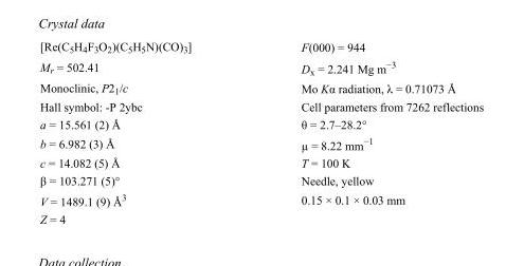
<table><tbody><tr><td>[Re(C<sub>5</sub>H<sub>4</sub>F<sub>3</sub>O<sub>2</sub>)(C<sub>5</sub>H<sub>5</sub>N)(CO)<sub>3</sub>]</td><td>F(000) = 944</td></tr><tr><td>M<sub>r</sub> = 502.41</td><td>D<sub>x</sub> = 2.241 Mg m<sup>−3</sup></td></tr><tr><td>Monoclinic, P2<sub>1</sub>/c</td><td>Mo Kα radiation, λ = 0.71073 Å</td></tr><tr><td>Hall symbol: -P 2ybc</td><td>Cell parameters from 7262 reflections</td></tr><tr><td>a = 15.561 (2) Å</td><td>θ = 2.7–28.2°</td></tr><tr><td>b = 6.982 (3) Å</td><td>µ = 8.22 mm<sup>−1</sup></td></tr><tr><td>c = 14.082 (5) Å</td><td>T = 100 K</td></tr><tr><td>β = 103.271 (5)°</td><td>Needle, yellow</td></tr><tr><td>V = 1489.1 (9) Å<sup>3</sup></td><td>0.15 × 0.1 × 0.03 mm</td></tr><tr><td>Z = 4</td><td></td></tr></tbody></table>